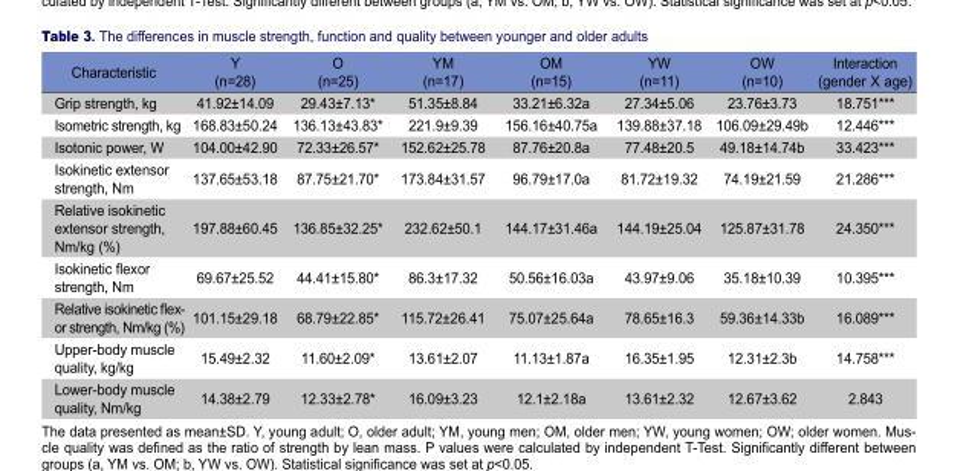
<table><thead><tr><td>Characteristic</td><td>Y (n=28)</td><td>O (n=25)</td><td>YM (n=17)</td><td>OM (n=15)</td><td>YW (n=11)</td><td>OW (n=10)</td><td>Interaction (gender X age)</td></tr></thead><tbody><tr><td>Grip strength, kg</td><td>41.92±14.09</td><td>29.43±7.13*</td><td>51.35±8.84</td><td>33.21±6.32a</td><td>27.34±5.06</td><td>23.76±3.73</td><td>18.751***</td></tr><tr><td>Isometric strength, kg</td><td>168.83±50.24</td><td>136.13±43.83*</td><td>221.9±9.39</td><td>156.16±40.75a</td><td>139.88±37.18</td><td>106.09±29.49b</td><td>12.446***</td></tr><tr><td>Isotonic power, W</td><td>104.00±42.90</td><td>72.33±26.57*</td><td>152.62±25.78</td><td>87.76±20.8a</td><td>77.48±20.5</td><td>49.18±14.74b</td><td>33.423***</td></tr><tr><td>Isokinetic extensor strength, Nm</td><td>137.65±53.18</td><td>87.75±21.70*</td><td>173.84±31.57</td><td>96.79±17.0a</td><td>81.72±19.32</td><td>74.19±21.59</td><td>21.286***</td></tr><tr><td>Relative isokinetic extensor strength, Nm/kg (%)</td><td>197.88±60.45</td><td>136.85±32.25*</td><td>232.62±50.1</td><td>144.17±31.46a</td><td>144.19±25.04</td><td>125.87±31.78</td><td>24.350***</td></tr><tr><td>Isokinetic flexor strength, Nm</td><td>69.67±25.52</td><td>44.41±15.80*</td><td>86.3±17.32</td><td>50.56±16.03a</td><td>43.97±9.06</td><td>35.18±10.39</td><td>10.395***</td></tr><tr><td>Relative isokinetic flex- or strength, Nm/kg (%)</td><td>101.15±29.18</td><td>68.79±22.85*</td><td>115.72±26.41</td><td>75.07±25.64a</td><td>78.65±16.3</td><td>59.36±14.33b</td><td>16.089***</td></tr><tr><td>Upper-body muscle quality, kg/kg</td><td>15.49±2.32</td><td>11.60±2.09*</td><td>13.61±2.07</td><td>11.13±1.87a</td><td>16.35±1.95</td><td>12.31±2.3b</td><td>14.758***</td></tr><tr><td>Lower-body muscle quality, Nm/kg</td><td>14.38±2.79</td><td>12.33±2.78*</td><td>16.09±3.23</td><td>12.1±2.18a</td><td>13.61±2.32</td><td>12.67±3.62</td><td>2.843</td></tr></tbody></table>